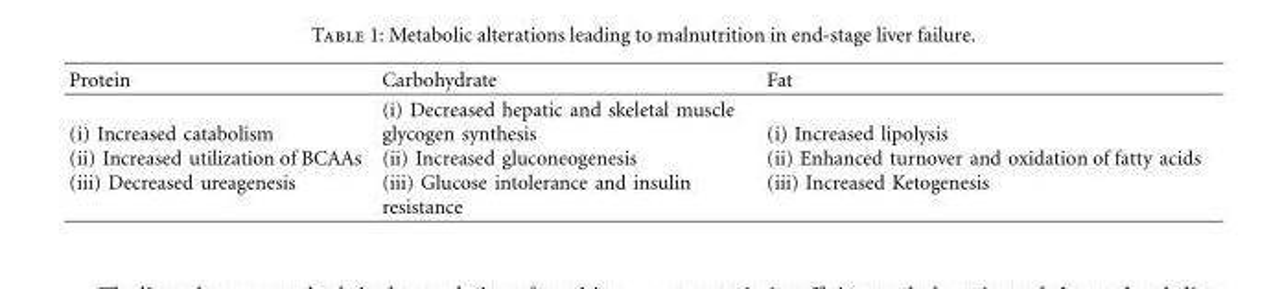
<table><thead><tr><td>Protein</td><td>Carbohydrate</td><td>Fat</td></tr></thead><tbody><tr><td>(i) Increased catabolism (ii) Increased utilization of BCAAs (iii) Decreased ureagenesis</td><td>(i) Decreased hepatic and skeletal muscle glycogen synthesis (ii) Increased gluconeogenesis (iii) Glucose intolerance and insulin resistance</td><td>(i) Increased lipolysis (ii) Enhanced turnover and oxidation of fatty acids (iii) Increased Ketogenesis</td></tr></tbody></table>